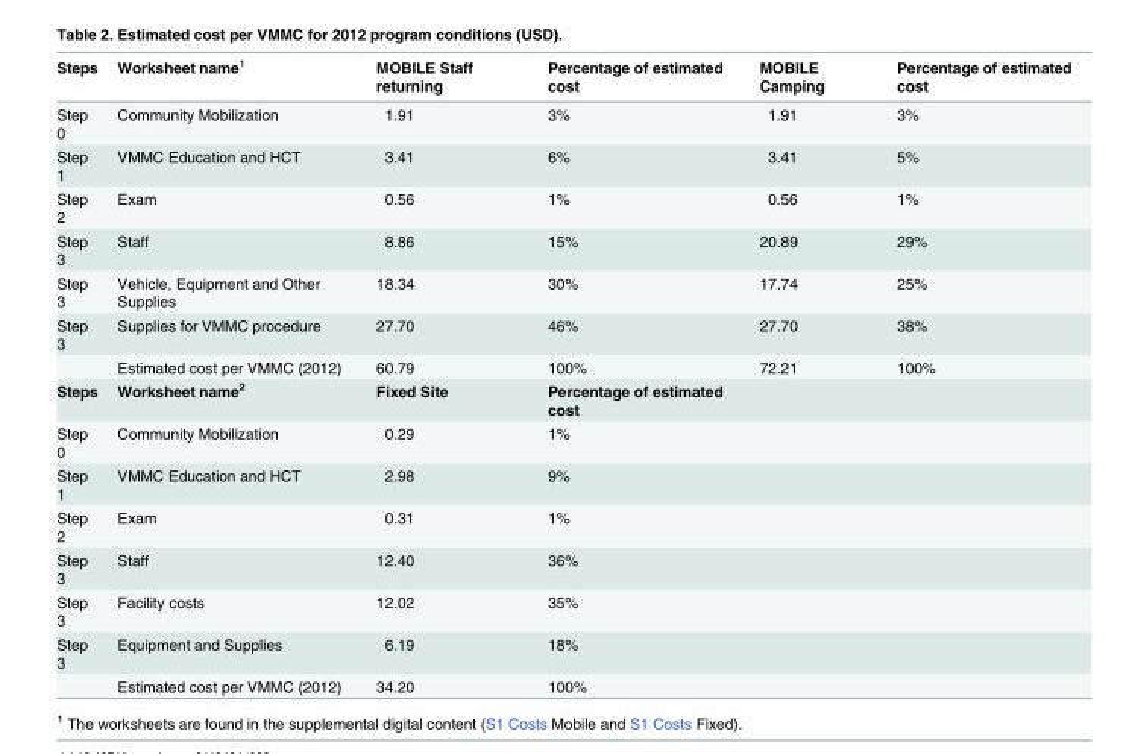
<table><thead><tr><td>Steps</td><td>Worksheet name<sup>1</sup></td><td>MOBILE Staff returning</td><td>Percentage of estimated cost</td><td>MOBILE Camping</td><td>Percentage of estimated cost</td></tr></thead><tbody><tr><td>Step 0</td><td>Community Mobilization</td><td>1.91</td><td>3%</td><td>1.91</td><td>3%</td></tr><tr><td>Step 1</td><td>VMMC Education and HCT</td><td>3.41</td><td>6%</td><td>3.41</td><td>5%</td></tr><tr><td>Step 2</td><td>Exam</td><td>0.56</td><td>1%</td><td>0.56</td><td>1%</td></tr><tr><td>Step 3</td><td>Staff</td><td>8.86</td><td>15%</td><td>20.89</td><td>29%</td></tr><tr><td>Step 3</td><td>Vehicle, Equipment and Other Supplies</td><td>18.34</td><td>30%</td><td>17.74</td><td>25%</td></tr><tr><td rowspan="2">Step 3</td><td>Supplies for VMMC procedure</td><td>27.70</td><td>46%</td><td>27.70</td><td>38%</td></tr><tr><td>Estimated cost per VMMC (2012)</td><td>60.79</td><td>100%</td><td>72.21</td><td>100%</td></tr><tr><td>Steps</td><td>Worksheet name<sup>2</sup></td><td>Fixed Site</td><td>Percentage of estimated cost</td><td></td><td></td></tr><tr><td>Step 0</td><td>Community Mobilization</td><td>0.29</td><td>1%</td><td></td><td></td></tr><tr><td>Step 1</td><td>VMMC Education and HCT</td><td>2.98</td><td>9%</td><td></td><td></td></tr><tr><td>Step 2</td><td>Exam</td><td>0.31</td><td>1%</td><td></td><td></td></tr><tr><td>Step 3</td><td>Staff</td><td>12.40</td><td>36%</td><td></td><td></td></tr><tr><td>Step 3</td><td>Facility costs</td><td>12.02</td><td>35%</td><td></td><td></td></tr><tr><td rowspan="2">Step 3</td><td>Equipment and Supplies</td><td>6.19</td><td>18%</td><td></td><td></td></tr><tr><td>Estimated cost per VMMC (2012)</td><td>34.20</td><td>100%</td><td></td><td></td></tr></tbody></table>